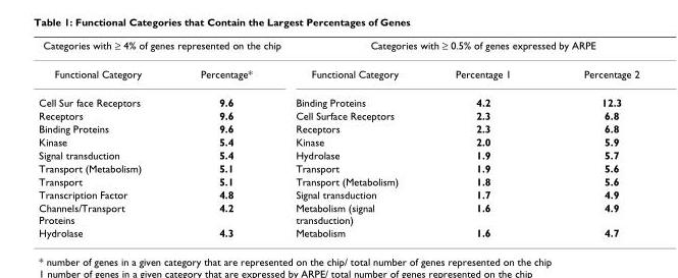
<table><thead><tr><td colspan="2">Categories with ≥ 4% of genes represented on the chip</td><td colspan="3">Categories with ≥ 0.5% of genes expressed by ARPE</td></tr><tr><td>Functional Category</td><td>Percentage*</td><td>Functional Category</td><td>Percentage 1</td><td>Percentage 2</td></tr></thead><tbody><tr><td>Cell Sur face Receptors</td><td>9.6</td><td>Binding Proteins</td><td>4.2</td><td>12.3</td></tr><tr><td>Receptors</td><td>9.6</td><td>Cell Surface Receptors</td><td>2.3</td><td>6.8</td></tr><tr><td>Binding Proteins</td><td>9.6</td><td>Receptors</td><td>2.3</td><td>6.8</td></tr><tr><td>Kinase</td><td>5.4</td><td>Kinase</td><td>2.0</td><td>5.9</td></tr><tr><td>Signal transduction</td><td>5.4</td><td>Hydrolase</td><td>1.9</td><td>5.7</td></tr><tr><td>Transport (Metabolism)</td><td>5.1</td><td>Transport</td><td>1.9</td><td>5.6</td></tr><tr><td>Transport</td><td>5.1</td><td>Transport (Metabolism)</td><td>1.8</td><td>5.6</td></tr><tr><td>Transcription Factor</td><td>4.8</td><td>Signal transduction</td><td>1.7</td><td>4.9</td></tr><tr><td>Channels/Transport Proteins</td><td>4.2</td><td>Metabolism (signal transduction)</td><td>1.6</td><td>4.9</td></tr><tr><td>Hydrolase</td><td>4.3</td><td>Metabolism</td><td>1.6</td><td>4.7</td></tr></tbody></table>